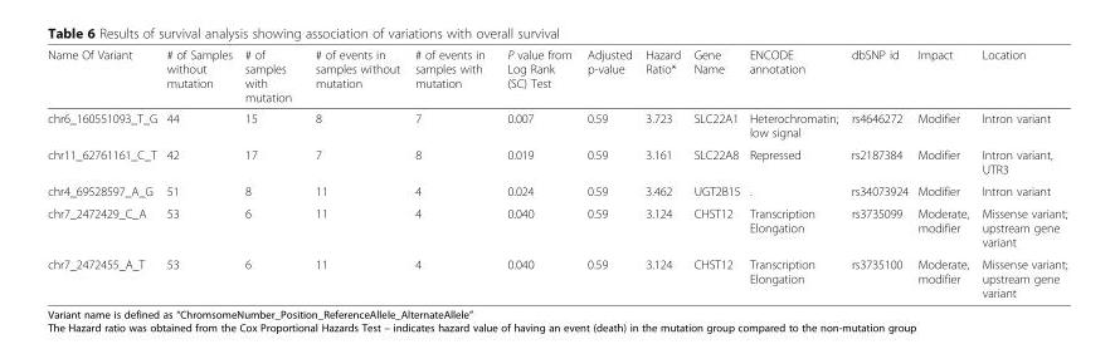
<table><thead><tr><td>Name Of Variant</td><td># of Samples without mutation</td><td># of samples with mutation</td><td># of events in samples without mutation</td><td># of events in samples with mutation</td><td>P value from Log Rank (SC) Test</td><td>Adjusted p-value</td><td>Hazard Ratio*</td><td>Gene Name</td><td>ENCODE annotation</td><td>dbSNP id</td><td>Impact</td><td>Location</td></tr></thead><tbody><tr><td>chr6_160551093_T_G</td><td>44</td><td>15</td><td>8</td><td>7</td><td>0.007</td><td>0.59</td><td>3.723</td><td>SLC22A1</td><td>Heterochromatin; low signal</td><td>rs4646272</td><td>Modifier</td><td>Intron variant</td></tr><tr><td>chr11_62761161_C_T</td><td>42</td><td>17</td><td>7</td><td>8</td><td>0.019</td><td>0.59</td><td>3.161</td><td>SLC22A8</td><td>Repressed</td><td>rs2187384</td><td>Modifier</td><td>Intron variant, UTR3</td></tr><tr><td>chr4_69528597_A_G</td><td>51</td><td>8</td><td>11</td><td>4</td><td>0.024</td><td>0.59</td><td>3.462</td><td>UGT2B15</td><td>.</td><td>rs34073924</td><td>Modifier</td><td>Intron variant</td></tr><tr><td>chr7_2472429_C_A</td><td>53</td><td>6</td><td>11</td><td>4</td><td>0.040</td><td>0.59</td><td>3.124</td><td>CHST12</td><td>Transcription Elongation</td><td>rs3735099</td><td>Moderate, modifier</td><td>Missense variant; upstream gene variant</td></tr><tr><td>chr7_2472455_A_T</td><td>53</td><td>6</td><td>11</td><td>4</td><td>0.040</td><td>0.59</td><td>3.124</td><td>CHST12</td><td>Transcription Elongation</td><td>rs3735100</td><td>Moderate, modifier</td><td>Missense variant; upstream gene variant</td></tr></tbody></table>